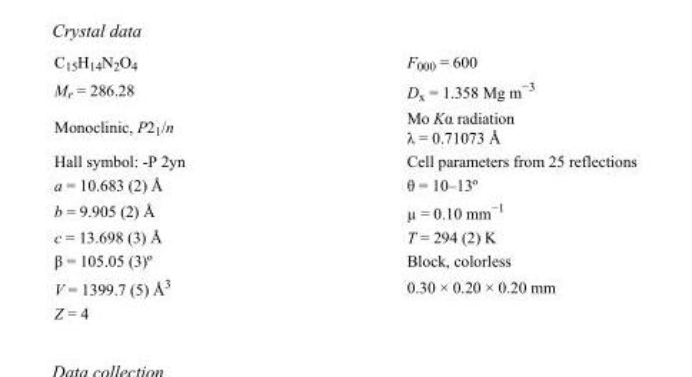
<table><tbody><tr><td>C<sub>15</sub>H<sub>14</sub>N<sub>2</sub>O<sub>4</sub></td><td>F000 = 600</td></tr><tr><td>M<sub>r</sub> = 286.28</td><td>D<sub>x</sub> = 1.358 Mg m<sup>−3</sup></td></tr><tr><td>Monoclinic, P2<sub>1</sub>/n</td><td>Mo Kα radiation λ = 0.71073 Å</td></tr><tr><td>Hall symbol: -P 2yn</td><td>Cell parameters from 25 reflections</td></tr><tr><td>a = 10.683 (2) Å</td><td>θ = 10–13º</td></tr><tr><td>b = 9.905 (2) Å</td><td>µ = 0.10 mm<sup>−1</sup></td></tr><tr><td>c = 13.698 (3) Å</td><td>T = 294 (2) K</td></tr><tr><td>β = 105.05 (3)º</td><td>Block, colorless</td></tr><tr><td>V = 1399.7 (5) Å<sup>3</sup></td><td>0.30 × 0.20 × 0.20 mm</td></tr><tr><td>Z = 4</td><td></td></tr></tbody></table>